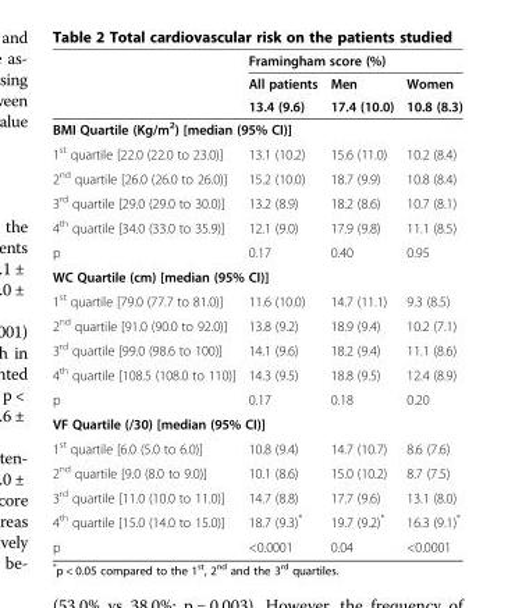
<table><thead><tr><td rowspan="3"></td><td colspan="3">Framingham score (%)</td></tr><tr><td rowspan="2">All patients 13.4 (9.6)</td><td rowspan="2">Men 17.4 (10.0)</td><td rowspan="2">Women 10.8 (8.3)</td></tr><tr></tr></thead><tbody><tr><td colspan="4">BMI Quartile (Kg/m<sup>2</sup>) [median (95% CI)]</td></tr><tr><td>1<sup>st</sup> quartile [22.0 (22.0 to 23.0)]</td><td>13.1 (10.2)</td><td>15.6 (11.0)</td><td>10.2 (8.4)</td></tr><tr><td>2<sup>nd</sup> quartile [26.0 (26.0 to 26.0)]</td><td>15.2 (10.0)</td><td>18.7 (9.9)</td><td>10.8 (8.4)</td></tr><tr><td>3<sup>rd</sup> quartile [29.0 (29.0 to 30.0)]</td><td>13.2 (8.9)</td><td>18.2 (8.6)</td><td>10.7 (8.1)</td></tr><tr><td>4<sup>th</sup> quartile [34.0 (33.0 to 35.9)]</td><td>12.1 (9.0)</td><td>17.9 (9.8)</td><td>11.1 (8.5)</td></tr><tr><td>p</td><td>0.17</td><td>0.40</td><td>0.95</td></tr><tr><td colspan="4">WC Quartile (cm) [median (95% CI)]</td></tr><tr><td>1<sup>st</sup> quartile [79.0 (77.7 to 81.0)]</td><td>11.6 (10.0)</td><td>14.7 (11.1)</td><td>9.3 (8.5)</td></tr><tr><td>2<sup>nd</sup> quartile [91.0 (90.0 to 92.0)]</td><td>13.8 (9.2)</td><td>18.9 (9.4)</td><td>10.2 (7.1)</td></tr><tr><td>3<sup>rd</sup> quartile [99.0 (98.6 to 100)]</td><td>14.1 (9.6)</td><td>18.2 (9.4)</td><td>11.1 (8.6)</td></tr><tr><td>4<sup>th</sup> quartile [108.5 (108.0 to 110)]</td><td>14.3 (9.5)</td><td>18.8 (9.5)</td><td>12.4 (8.9)</td></tr><tr><td>p</td><td>0.17</td><td>0.18</td><td>0.20</td></tr><tr><td colspan="4">VF Quartile (/30) [median (95% CI)]</td></tr><tr><td>1<sup>st</sup> quartile [6.0 (5.0 to 6.0)]</td><td>10.8 (9.4)</td><td>14.7 (10.7)</td><td>8.6 (7.6)</td></tr><tr><td>2<sup>nd</sup> quartile [9.0 (8.0 to 9.0)]</td><td>10.1 (8.6)</td><td>15.0 (10.2)</td><td>8.7 (7.5)</td></tr><tr><td>3<sup>rd</sup> quartile [11.0 (10.0 to 11.0)]</td><td>14.7 (8.8)</td><td>17.7 (9.6)</td><td>13.1 (8.0)</td></tr><tr><td>4<sup>th</sup> quartile [15.0 (14.0 to 15.0)]</td><td>18.7 (9.3)*</td><td>19.7 (9.2)*</td><td>16.3 (9.1)*</td></tr><tr><td>p</td><td>&lt;0.0001</td><td>0.04</td><td>&lt;0.0001</td></tr></tbody></table>